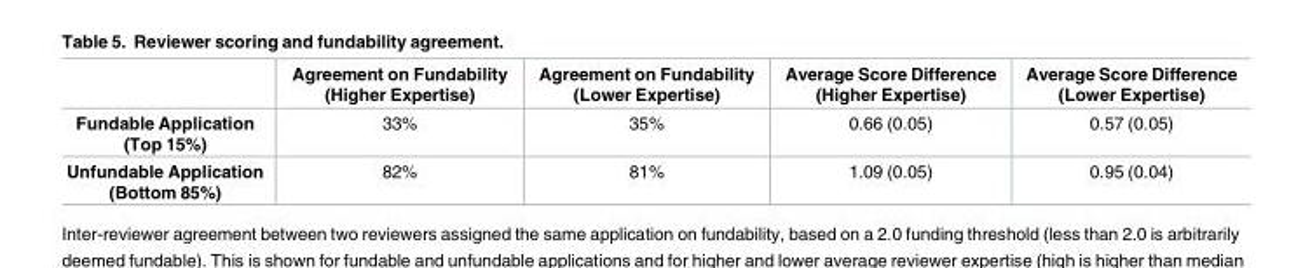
<table><thead><tr><td></td><td>Agreement on Fundability (Higher Expertise)</td><td>Agreement on Fundability (Lower Expertise)</td><td>Average Score Difference (Higher Expertise)</td><td>Average Score Difference (Lower Expertise)</td></tr></thead><tbody><tr><td>Fundable Application (Top 15%)</td><td>33%</td><td>35%</td><td>0.66 (0.05)</td><td>0.57 (0.05)</td></tr><tr><td>Unfundable Application (Bottom 85%)</td><td>82%</td><td>81%</td><td>1.09 (0.05)</td><td>0.95 (0.04)</td></tr></tbody></table>